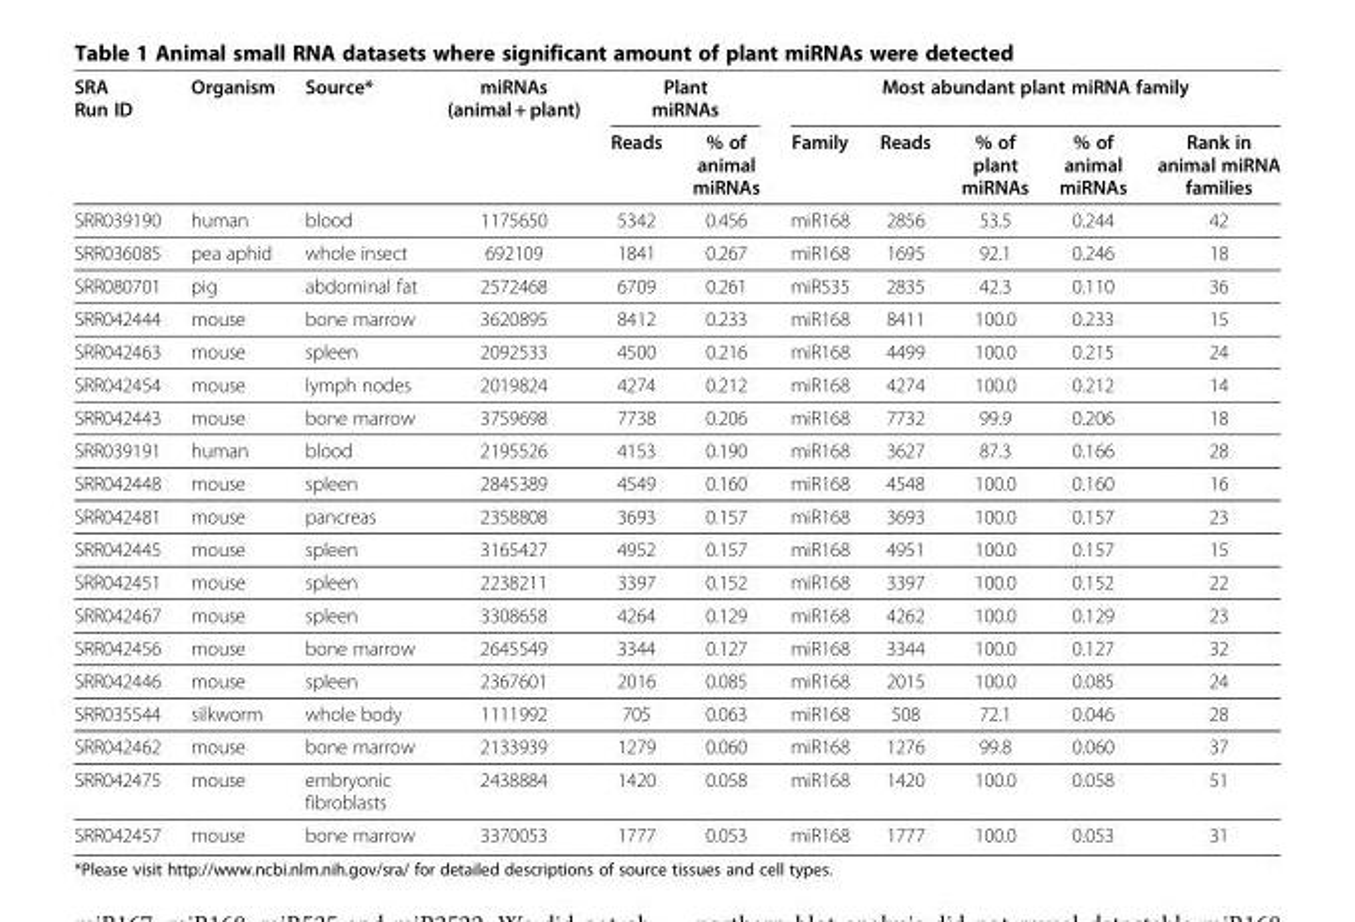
<table><thead><tr><td rowspan="2">SRA Run ID</td><td rowspan="2">Organism</td><td rowspan="2">Source*</td><td rowspan="2">miRNAs (animal + plant)</td><td colspan="2">Plant miRNAs</td><td colspan="5">Most abundant plant miRNA family</td></tr><tr><td>Reads</td><td>% of animal miRNAs</td><td>Family</td><td>Reads</td><td>% of plant miRNAs</td><td>% of animal miRNAs</td><td>Rank in animal miRNA families</td></tr></thead><tbody><tr><td>SRR039190</td><td>human</td><td>blood</td><td>1175650</td><td>5342</td><td>0.456</td><td>miR168</td><td>2856</td><td>53.5</td><td>0.244</td><td>42</td></tr><tr><td>SRR036085</td><td>pea aphid</td><td>whole insect</td><td>692109</td><td>1841</td><td>0.267</td><td>miR168</td><td>1695</td><td>92.1</td><td>0.246</td><td>18</td></tr><tr><td>SRR080701</td><td>pig</td><td>abdominal fat</td><td>2572468</td><td>6709</td><td>0.261</td><td>miR535</td><td>2835</td><td>42.3</td><td>0.110</td><td>36</td></tr><tr><td>SRR042444</td><td>mouse</td><td>bone marrow</td><td>3620895</td><td>8412</td><td>0.233</td><td>miR168</td><td>8411</td><td>100.0</td><td>0.233</td><td>15</td></tr><tr><td>SRR042463</td><td>mouse</td><td>spleen</td><td>2092533</td><td>4500</td><td>0.216</td><td>miR168</td><td>4499</td><td>100.0</td><td>0.215</td><td>24</td></tr><tr><td>SRR042454</td><td>mouse</td><td>lymph nodes</td><td>2019824</td><td>4274</td><td>0.212</td><td>miR168</td><td>4274</td><td>100.0</td><td>0.212</td><td>14</td></tr><tr><td>SRR042443</td><td>mouse</td><td>bone marrow</td><td>3759698</td><td>7738</td><td>0.206</td><td>miR168</td><td>7732</td><td>99.9</td><td>0.206</td><td>18</td></tr><tr><td>SRR039191</td><td>human</td><td>blood</td><td>2195526</td><td>4153</td><td>0.190</td><td>miR168</td><td>3627</td><td>87.3</td><td>0.166</td><td>28</td></tr><tr><td>SRR042448</td><td>mouse</td><td>spleen</td><td>2845389</td><td>4549</td><td>0.160</td><td>miR168</td><td>4548</td><td>100.0</td><td>0.160</td><td>16</td></tr><tr><td>SRR042481</td><td>mouse</td><td>pancreas</td><td>2358808</td><td>3693</td><td>0.157</td><td>miR168</td><td>3693</td><td>100.0</td><td>0.157</td><td>23</td></tr><tr><td>SRR042445</td><td>mouse</td><td>spleen</td><td>3165427</td><td>4952</td><td>0.157</td><td>miR168</td><td>4951</td><td>100.0</td><td>0.157</td><td>15</td></tr><tr><td>SRR042451</td><td>mouse</td><td>spleen</td><td>2238211</td><td>3397</td><td>0.152</td><td>miR168</td><td>3397</td><td>100.0</td><td>0.152</td><td>22</td></tr><tr><td>SRR042467</td><td>mouse</td><td>spleen</td><td>3308658</td><td>4264</td><td>0.129</td><td>miR168</td><td>4262</td><td>100.0</td><td>0.129</td><td>23</td></tr><tr><td>SRR042456</td><td>mouse</td><td>bone marrow</td><td>2645549</td><td>3344</td><td>0.127</td><td>miR168</td><td>3344</td><td>100.0</td><td>0.127</td><td>32</td></tr><tr><td>SRR042446</td><td>mouse</td><td>spleen</td><td>2367601</td><td>2016</td><td>0.085</td><td>miR168</td><td>2015</td><td>100.0</td><td>0.085</td><td>24</td></tr><tr><td>SRR035544</td><td>silkworm</td><td>whole body</td><td>1111992</td><td>705</td><td>0.063</td><td>miR168</td><td>508</td><td>72.1</td><td>0.046</td><td>28</td></tr><tr><td>SRR042462</td><td>mouse</td><td>bone marrow</td><td>2133939</td><td>1279</td><td>0.060</td><td>miR168</td><td>1276</td><td>99.8</td><td>0.060</td><td>37</td></tr><tr><td>SRR042475</td><td>mouse</td><td>embryonic fibroblasts</td><td>2438884</td><td>1420</td><td>0.058</td><td>miR168</td><td>1420</td><td>100.0</td><td>0.058</td><td>51</td></tr><tr><td>SRR042457</td><td>mouse</td><td>bone marrow</td><td>3370053</td><td>1777</td><td>0.053</td><td>miR168</td><td>1777</td><td>100.0</td><td>0.053</td><td>31</td></tr></tbody></table>